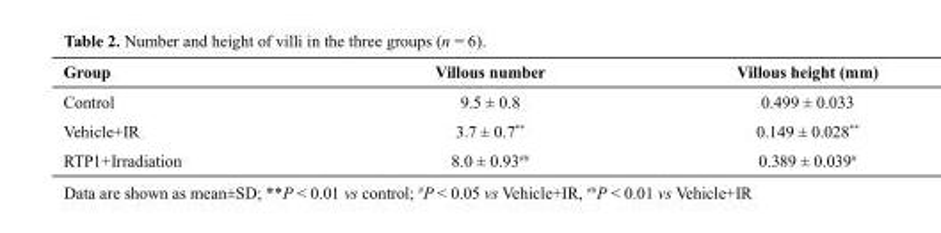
<table><thead><tr><td>Group</td><td>Villous number</td><td>Villous height (mm)</td></tr></thead><tbody><tr><td>Control</td><td>9.5 ± 0.8</td><td>0.499 ± 0.033</td></tr><tr><td>Vehicle+IR</td><td>3.7 ± 0.7**</td><td>0.149 ± 0.028**</td></tr><tr><td>RTP1+Irradiation</td><td>8.0 ± 0.93##</td><td>0.389 ± 0.039#</td></tr></tbody></table>